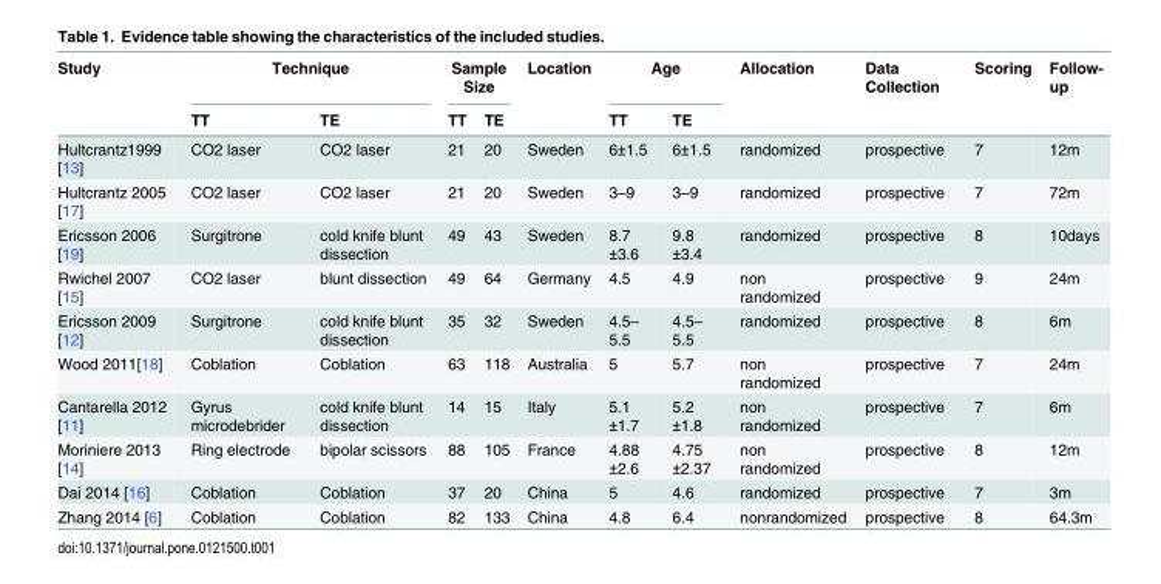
<table><thead><tr><td rowspan="2">Study</td><td colspan="2">Technique</td><td colspan="2">Sample Size</td><td rowspan="2">Location</td><td colspan="2">Age</td><td rowspan="2">Allocation</td><td rowspan="2">Data Collection</td><td rowspan="2">Scoring</td><td rowspan="2">Follow- up</td></tr><tr><td>TT</td><td>TE</td><td>TT</td><td>TE</td><td>TT</td><td>TE</td></tr></thead><tbody><tr><td>Hultcrantz1999 [13]</td><td>CO2 laser</td><td>CO2 laser</td><td>21</td><td>20</td><td>Sweden</td><td>6±1.5</td><td>6±1.5</td><td>randomized</td><td>prospective</td><td>7</td><td>12m</td></tr><tr><td>Hultcrantz 2005 [17]</td><td>CO2 laser</td><td>CO2 laser</td><td>21</td><td>20</td><td>Sweden</td><td>3–9</td><td>3–9</td><td>randomized</td><td>prospective</td><td>7</td><td>72m</td></tr><tr><td>Ericsson 2006 [19]</td><td>Surgitrone</td><td>cold knife blunt dissection</td><td>49</td><td>43</td><td>Sweden</td><td>8.7 ±3.6</td><td>9.8 ±3.4</td><td>randomized</td><td>prospective</td><td>8</td><td>10days</td></tr><tr><td>Rwichel 2007 [15]</td><td>CO2 laser</td><td>blunt dissection</td><td>49</td><td>64</td><td>Germany</td><td>4.5</td><td>4.9</td><td>non randomized</td><td>prospective</td><td>9</td><td>24m</td></tr><tr><td>Ericsson 2009 [12]</td><td>Surgitrone</td><td>cold knife blunt dissection</td><td>35</td><td>32</td><td>Sweden</td><td>4.5– 5.5</td><td>4.5– 5.5</td><td>randomized</td><td>prospective</td><td>8</td><td>6m</td></tr><tr><td>Wood 2011[18]</td><td>Coblation</td><td>Coblation</td><td>63</td><td>118</td><td>Australia</td><td>5</td><td>5.7</td><td>non randomized</td><td>prospective</td><td>7</td><td>24m</td></tr><tr><td>Cantarella 2012 [11]</td><td>Gyrus microdebrider</td><td>cold knife blunt dissection</td><td>14</td><td>15</td><td>Italy</td><td>5.1 ±1.7</td><td>5.2 ±1.8</td><td>non randomized</td><td>prospective</td><td>7</td><td>6m</td></tr><tr><td>Moriniere 2013 [14]</td><td>Ring electrode</td><td>bipolar scissors</td><td>88</td><td>105</td><td>France</td><td>4.88 ±2.6</td><td>4.75 ±2.37</td><td>non randomized</td><td>prospective</td><td>8</td><td>12m</td></tr><tr><td>Dai 2014 [16]</td><td>Coblation</td><td>Coblation</td><td>37</td><td>20</td><td>China</td><td>5</td><td>4.6</td><td>randomized</td><td>prospective</td><td>7</td><td>3m</td></tr><tr><td>Zhang 2014 [6]</td><td>Coblation</td><td>Coblation</td><td>82</td><td>133</td><td>China</td><td>4.8</td><td>6.4</td><td>nonrandomized</td><td>prospective</td><td>8</td><td>64.3m</td></tr></tbody></table>